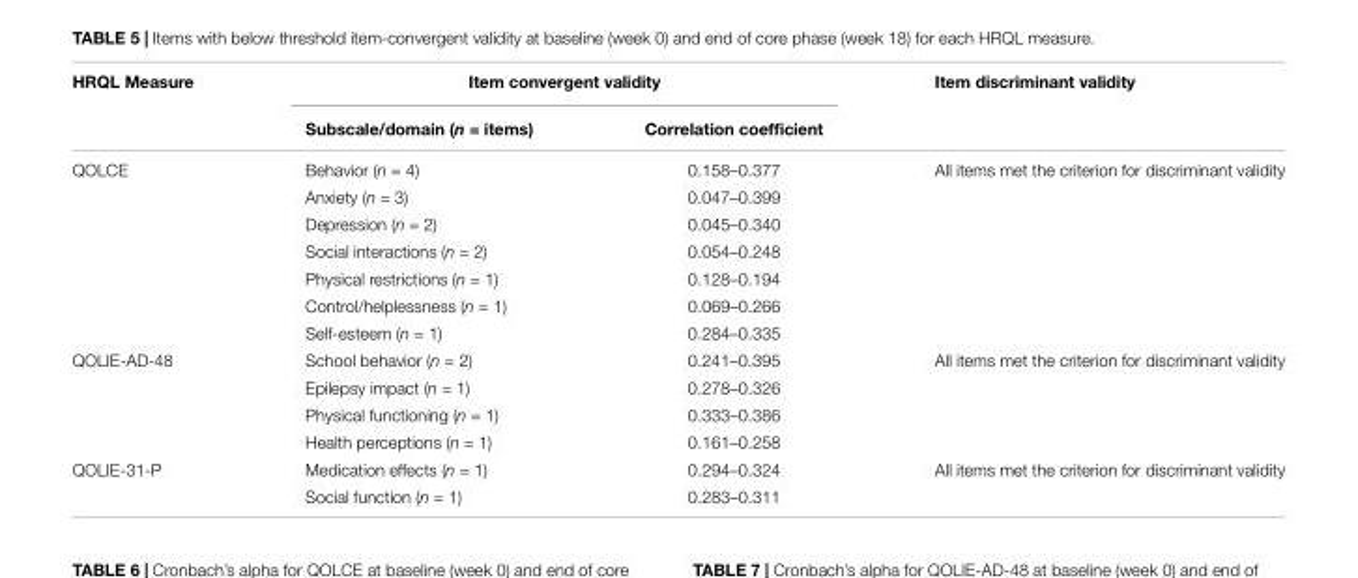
<table><thead><tr><td rowspan="2">HRQL Measure</td><td colspan="2">Item convergent validity</td><td rowspan="2">Item discriminant validity</td></tr><tr><td>Subscale/domain (n = items)</td><td>Correlation coefficient</td></tr></thead><tbody><tr><td rowspan="7">QOLCE</td><td>Behavior (n = 4)</td><td>0.158–0.377</td><td>All items met the criterion for discriminant validity</td></tr><tr><td>Anxiety (n = 3)</td><td>0.047–0.399</td><td></td></tr><tr><td>Depression (n = 2)</td><td>0.045–0.340</td><td></td></tr><tr><td>Social interactions (n = 2)</td><td>0.054–0.248</td><td></td></tr><tr><td>Physical restrictions (n = 1)</td><td>0.128–0.194</td><td></td></tr><tr><td>Control/helplessness (n = 1)</td><td>0.069–0.266</td><td></td></tr><tr><td>Self-esteem (n = 1)</td><td>0.284–0.335</td><td></td></tr><tr><td rowspan="4">QOLIE-AD-48</td><td>School behavior (n = 2)</td><td>0.241–0.395</td><td>All items met the criterion for discriminant validity</td></tr><tr><td>Epilepsy impact (n = 1)</td><td>0.278–0.326</td><td></td></tr><tr><td>Physical functioning (n = 1)</td><td>0.333–0.386</td><td></td></tr><tr><td>Health perceptions (n = 1)</td><td>0.161–0.258</td><td></td></tr><tr><td rowspan="2">QOLIE-31-P</td><td>Medication effects (n = 1)</td><td>0.294–0.324</td><td>All items met the criterion for discriminant validity</td></tr><tr><td>Social function (n = 1)</td><td>0.283–0.311</td><td></td></tr></tbody></table>